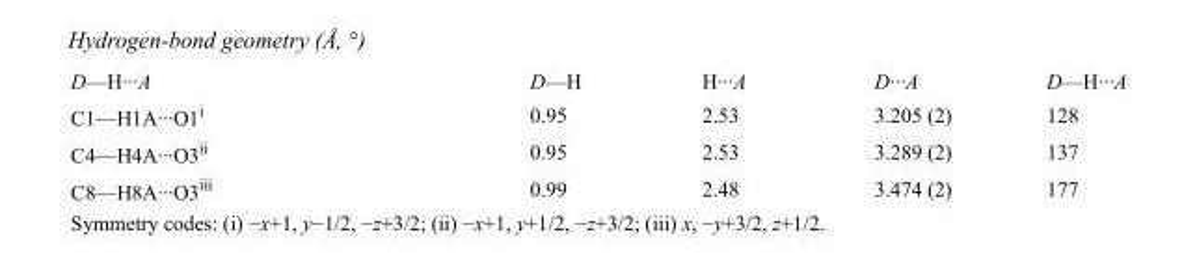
<table><tbody><tr><td>D—H···A</td><td>D—H</td><td>H···A</td><td>D···A</td><td>D—H···A</td></tr><tr><td>C1—H1A···O1<sup>i</sup></td><td>0.95</td><td>2.53</td><td>3.205 (2)</td><td>128</td></tr><tr><td>C4—H4A···O3<sup>ii</sup></td><td>0.95</td><td>2.53</td><td>3.289 (2)</td><td>137</td></tr><tr><td>C8—H8A···O3<sup>iii</sup></td><td>0.99</td><td>2.48</td><td>3.474 (2)</td><td>177</td></tr></tbody></table>